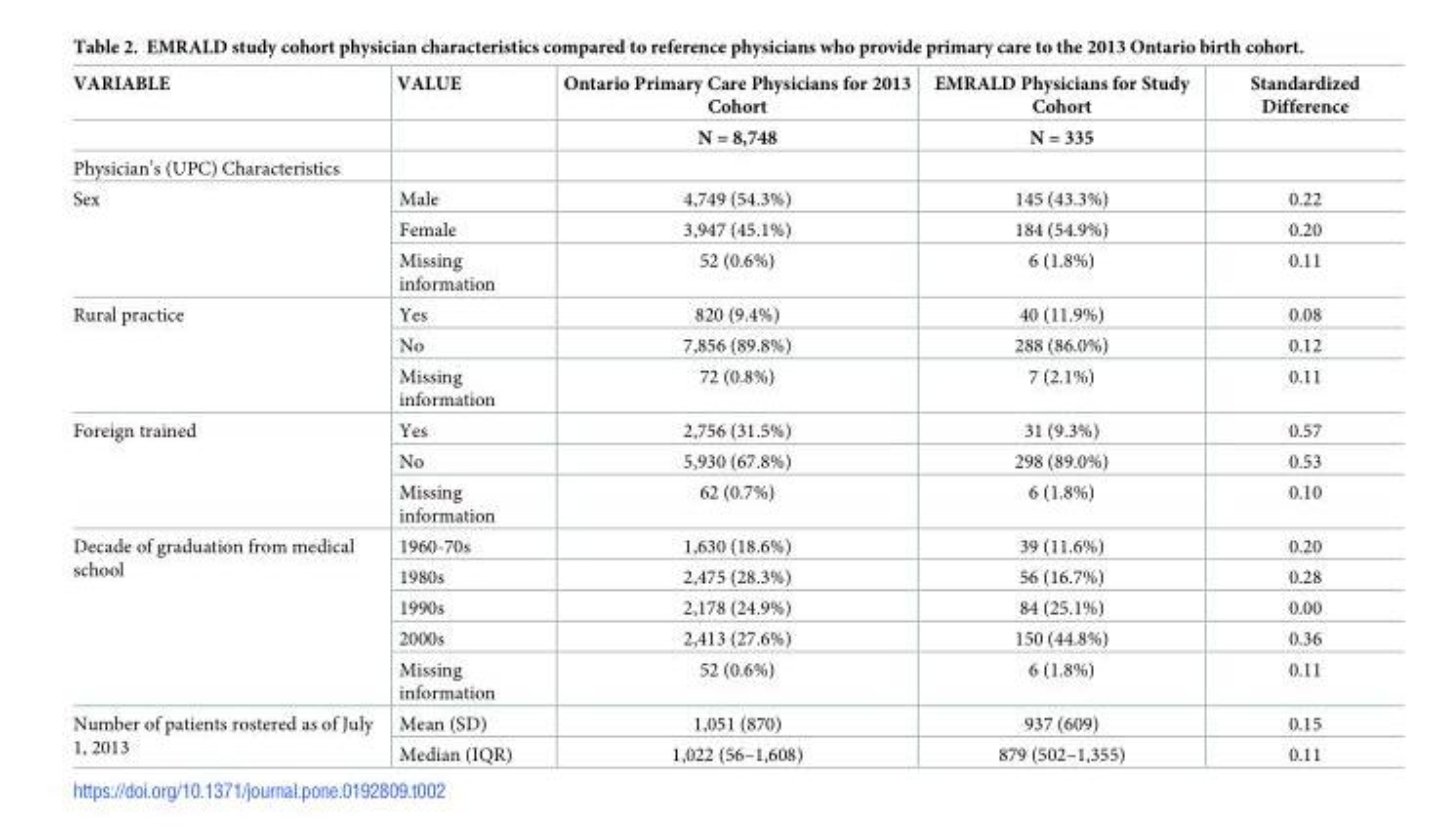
<table><thead><tr><td rowspan="2">VARIABLE</td><td rowspan="2">VALUE</td><td rowspan="2">Ontario Primary Care Physicians for 2013 Cohort N = 8,748</td><td rowspan="2">EMRALD Physicians for Study Cohort N = 335</td><td rowspan="2">Standardized Difference</td></tr><tr></tr></thead><tbody><tr><td colspan="5">Physician’s (UPC) Characteristics</td></tr><tr><td rowspan="3">Sex</td><td>Male</td><td>4,749 (54.3%)</td><td>145 (43.3%)</td><td>0.22</td></tr><tr><td>Female</td><td>3,947 (45.1%)</td><td>184 (54.9%)</td><td>0.20</td></tr><tr><td>Missing information</td><td>52 (0.6%)</td><td>6 (1.8%)</td><td>0.11</td></tr><tr><td rowspan="3">Rural practice</td><td>Yes</td><td>820 (9.4%)</td><td>40 (11.9%)</td><td>0.08</td></tr><tr><td>No</td><td>7,856 (89.8%)</td><td>288 (86.0%)</td><td>0.12</td></tr><tr><td>Missing information</td><td>72 (0.8%)</td><td>7 (2.1%)</td><td>0.11</td></tr><tr><td rowspan="3">Foreign trained</td><td>Yes</td><td>2,756 (31.5%)</td><td>31 (9.3%)</td><td>0.57</td></tr><tr><td>No</td><td>5,930 (67.8%)</td><td>298 (89.0%)</td><td>0.53</td></tr><tr><td>Missing information</td><td>62 (0.7%)</td><td>6 (1.8%)</td><td>0.10</td></tr><tr><td rowspan="5">Decade of graduation from medical school</td><td>1960-70s</td><td>1,630 (18.6%)</td><td>39 (11.6%)</td><td>0.20</td></tr><tr><td>1980s</td><td>2,475 (28.3%)</td><td>56 (16.7%)</td><td>0.28</td></tr><tr><td>1990s</td><td>2,178 (24.9%)</td><td>84 (25.1%)</td><td>0.00</td></tr><tr><td>2000s</td><td>2,413 (27.6%)</td><td>150 (44.8%)</td><td>0.36</td></tr><tr><td>Missing information</td><td>52 (0.6%)</td><td>6 (1.8%)</td><td>0.11</td></tr><tr><td rowspan="2">Number of patients rostered as of July 1, 2013</td><td>Mean (SD)</td><td>1,051 (870)</td><td>937 (609)</td><td>0.15</td></tr><tr><td>Median (IQR)</td><td>1,022 (56–1,608)</td><td>879 (502–1,355)</td><td>0.11</td></tr></tbody></table>